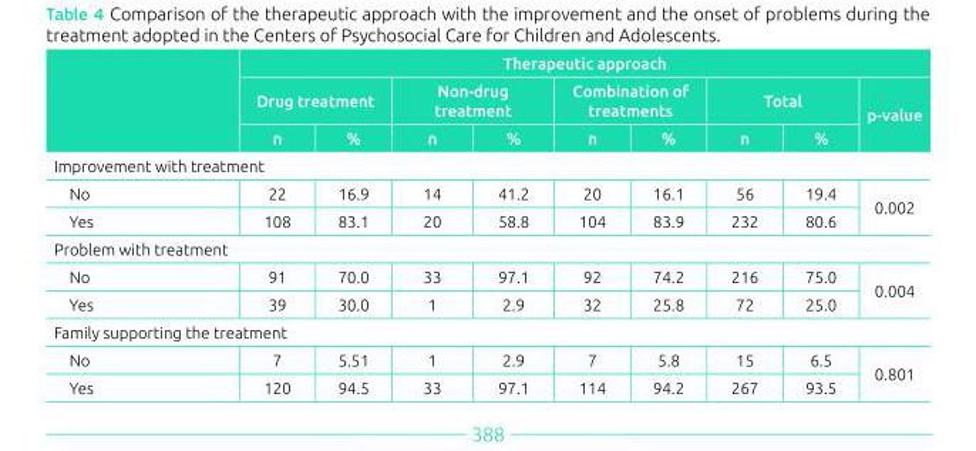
<table><thead><tr><td rowspan="3"></td><td colspan="9">Therapeutic approach</td></tr><tr><td colspan="2">Drug treatment</td><td colspan="2">Non‑drug treatment</td><td colspan="2">Combination of treatments</td><td colspan="2">Total</td><td rowspan="2">p‑value</td></tr><tr><td>n</td><td>%</td><td>n</td><td>%</td><td>n</td><td>%</td><td>n</td><td>%</td></tr></thead><tbody><tr><td colspan="10">Improvement with treatment</td></tr><tr><td>No</td><td>22</td><td>16.9</td><td>14</td><td>41.2</td><td>20</td><td>16.1</td><td>56</td><td>19.4</td><td rowspan="2">0.002</td></tr><tr><td>Yes</td><td>108</td><td>83.1</td><td>20</td><td>58.8</td><td>104</td><td>83.9</td><td>232</td><td>80.6</td></tr><tr><td colspan="10">Problem with treatment</td></tr><tr><td>No</td><td>91</td><td>70.0</td><td>33</td><td>97.1</td><td>92</td><td>74.2</td><td>216</td><td>75.0</td><td rowspan="2">0.004</td></tr><tr><td>Yes</td><td>39</td><td>30.0</td><td>1</td><td>2.9</td><td>32</td><td>25.8</td><td>72</td><td>25.0</td></tr><tr><td colspan="10">Family supporting the treatment</td></tr><tr><td>No</td><td>7</td><td>5.51</td><td>1</td><td>2.9</td><td>7</td><td>5.8</td><td>15</td><td>6.5</td><td rowspan="2">0.801</td></tr><tr><td>Yes</td><td>120</td><td>94.5</td><td>33</td><td>97.1</td><td>114</td><td>94.2</td><td>267</td><td>93.5</td></tr></tbody></table>